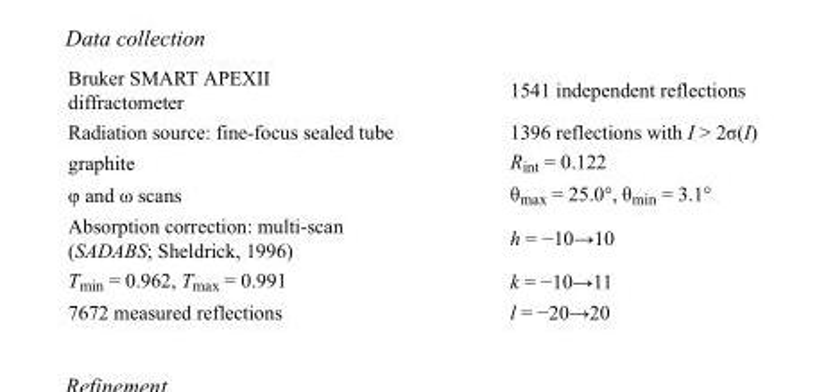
<table><tbody><tr><td>Bruker SMART APEXII diffractometer</td><td>1541 independent reflections</td></tr><tr><td>Radiation source: fine-focus sealed tube</td><td>1396 reflections with I &gt; 2σ(I)</td></tr><tr><td>graphite</td><td>R<sub>int</sub> = 0.122</td></tr><tr><td>φ and ω scans</td><td>θ<sub>max</sub> = 25.0°, θ<sub>min</sub> = 3.1°</td></tr><tr><td>Absorption correction: multi-scan (SADABS; Sheldrick, 1996)</td><td>h = −10→10</td></tr><tr><td>T<sub>min</sub> = 0.962, T<sub>max</sub> = 0.991</td><td>k = −10→11</td></tr><tr><td>7672 measured reflections</td><td>l = −20→20</td></tr></tbody></table>